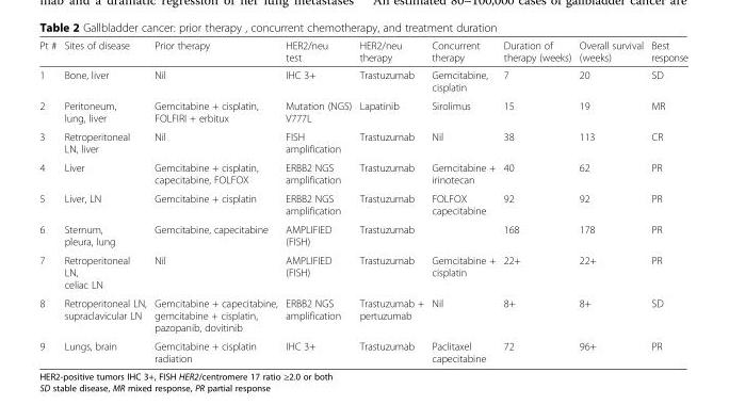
<table><thead><tr><td>Pt #</td><td>Sites of disease</td><td>Prior therapy</td><td>HER2/neu test</td><td>HER2/neu therapy</td><td>Concurrent therapy</td><td>Duration of therapy (weeks)</td><td>Overall survival (weeks)</td><td>Best response</td></tr></thead><tbody><tr><td>1</td><td>Bone, liver</td><td>Nil</td><td>IHC 3+</td><td>Trastuzumab</td><td>Gemcitabine, cisplatin</td><td>7</td><td>20</td><td>SD</td></tr><tr><td>2</td><td>Peritoneum, lung, liver</td><td>Gemcitabine + cisplatin, FOLFIRI + erbitux</td><td>Mutation (NGS) V777L</td><td>Lapatinib</td><td>Sirolimus</td><td>15</td><td>19</td><td>MR</td></tr><tr><td>3</td><td>Retroperitoneal LN, liver</td><td>Nil</td><td>FISH amplification</td><td>Trastuzumab</td><td>Nil</td><td>38</td><td>113</td><td>CR</td></tr><tr><td>4</td><td>Liver</td><td>Gemcitabine + cisplatin, capecitabine, FOLFOX</td><td>ERBB2 NGS amplification</td><td>Trastuzumab</td><td>Gemcitabine + irinotecan</td><td>40</td><td>62</td><td>PR</td></tr><tr><td>5</td><td>Liver, LN</td><td>Gemcitabine + cisplatin</td><td>ERBB2 NGS amplification</td><td>Trastuzumab</td><td>FOLFOX capecitabine</td><td>92</td><td>92</td><td>PR</td></tr><tr><td>6</td><td>Sternum, pleura, lung</td><td>Gemcitabine, capecitabine</td><td>AMPLIFIED (FISH)</td><td>Trastuzumab</td><td></td><td>168</td><td>178</td><td>PR</td></tr><tr><td>7</td><td>Retroperitoneal LN, celiac LN</td><td>Nil</td><td>AMPLIFIED (FISH)</td><td>Trastuzumab</td><td>Gemcitabine + cisplatin</td><td>22+</td><td>22+</td><td>PR</td></tr><tr><td>8</td><td>Retroperitoneal LN, supraclavicular LN</td><td>Gemcitabine + capecitabine, gemcitabine + cisplatin, pazopanib, dovitinib</td><td>ERBB2 NGS amplification</td><td>Trastuzumab + pertuzumab</td><td>Nil</td><td>8+</td><td>8+</td><td>SD</td></tr><tr><td>9</td><td>Lungs, brain</td><td>Gemcitabine + cisplatin radiation</td><td>IHC 3+</td><td>Trastuzumab</td><td>Paclitaxel capecitabine</td><td>72</td><td>96+</td><td>PR</td></tr></tbody></table>